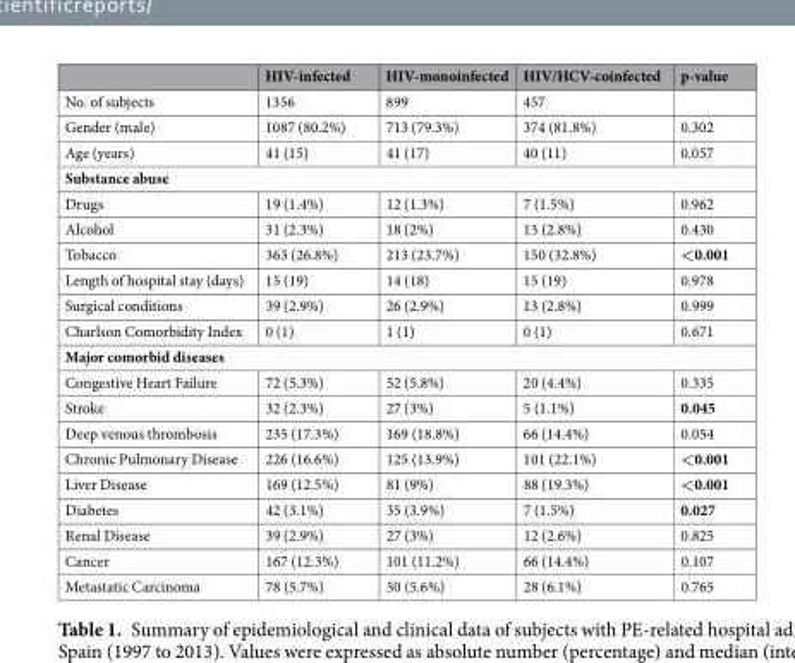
<table><thead><tr><td></td><td>HIV-infected</td><td>HIV-monoinfected</td><td>HIV/HCV-coinfected</td><td>p-value</td></tr></thead><tbody><tr><td>No. of subjects</td><td>1356</td><td>899</td><td>457</td><td></td></tr><tr><td>Gender (male)</td><td>1087 (80.2%)</td><td>713 (79.3%)</td><td>374 (81.8%)</td><td>0.302</td></tr><tr><td>Age (years)</td><td>41 (15)</td><td>41 (17)</td><td>40 (11)</td><td>0.057</td></tr><tr><td colspan="5">Substance abuse</td></tr><tr><td>Drugs</td><td>19 (1.4%)</td><td>12 (1.3%)</td><td>7 (1.5%)</td><td>0.962</td></tr><tr><td>Alcohol</td><td>31 (2.3%)</td><td>18 (2%)</td><td>13 (2.8%)</td><td>0.430</td></tr><tr><td>Tobacco</td><td>363 (26.8%)</td><td>213 (23.7%)</td><td>150 (32.8%)</td><td>&lt;0.001</td></tr><tr><td>Length of hospital stay (days)</td><td>15 (19)</td><td>14 (18)</td><td>15 (19)</td><td>0.978</td></tr><tr><td>Surgical conditions</td><td>39 (2.9%)</td><td>26 (2.9%)</td><td>13 (2.8%)</td><td>0.999</td></tr><tr><td>Charlson Comorbidity Index</td><td>0 (1)</td><td>1 (1)</td><td>0 (1)</td><td>0.671</td></tr><tr><td colspan="5">Major comorbid diseases</td></tr><tr><td>Congestive Heart Failure</td><td>72 (5.3%)</td><td>52 (5.8%)</td><td>20 (4.4%)</td><td>0.335</td></tr><tr><td>Stroke</td><td>32 (2.3%)</td><td>27 (3%)</td><td>5 (1.1%)</td><td>0.045</td></tr><tr><td>Deep venous thrombosis</td><td>235 (17.3%)</td><td>169 (18.8%)</td><td>66 (14.4%)</td><td>0.054</td></tr><tr><td>Chronic Pulmonary Disease</td><td>226 (16.6%)</td><td>125 (13.9%)</td><td>101 (22.1%)</td><td>&lt;0.001</td></tr><tr><td>Liver Disease</td><td>169 (12.5%)</td><td>81 (9%)</td><td>88 (19.3%)</td><td>&lt;0.001</td></tr><tr><td>Diabetes</td><td>42 (3.1%)</td><td>35 (3.9%)</td><td>7 (1.5%)</td><td>0.027</td></tr><tr><td>Renal Disease</td><td>39 (2.9%)</td><td>27 (3%)</td><td>12 (2.6%)</td><td>0.825</td></tr><tr><td>Cancer</td><td>167 (12.3%)</td><td>101 (11.2%)</td><td>66 (14.4%)</td><td>0.107</td></tr><tr><td>Metastatic Carcinoma</td><td>78 (5.7%)</td><td>50 (5.6%)</td><td>28 (6.1%)</td><td>0.765</td></tr></tbody></table>